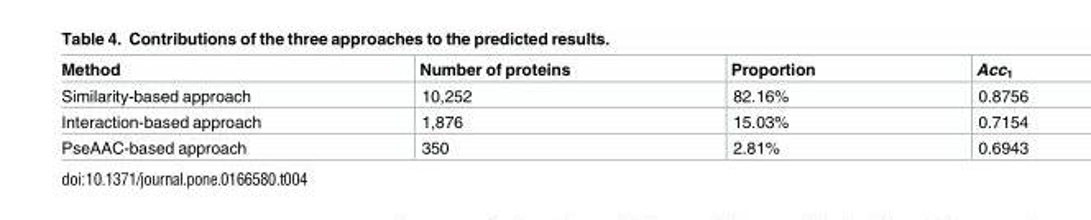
<table><thead><tr><td>Method</td><td>Number of proteins</td><td>Proportion</td><td>Acc<sub>1</sub></td></tr></thead><tbody><tr><td>Similarity-based approach</td><td>10,252</td><td>82.16%</td><td>0.8756</td></tr><tr><td>Interaction-based approach</td><td>1,876</td><td>15.03%</td><td>0.7154</td></tr><tr><td>PseAAC-based approach</td><td>350</td><td>2.81%</td><td>0.6943</td></tr></tbody></table>